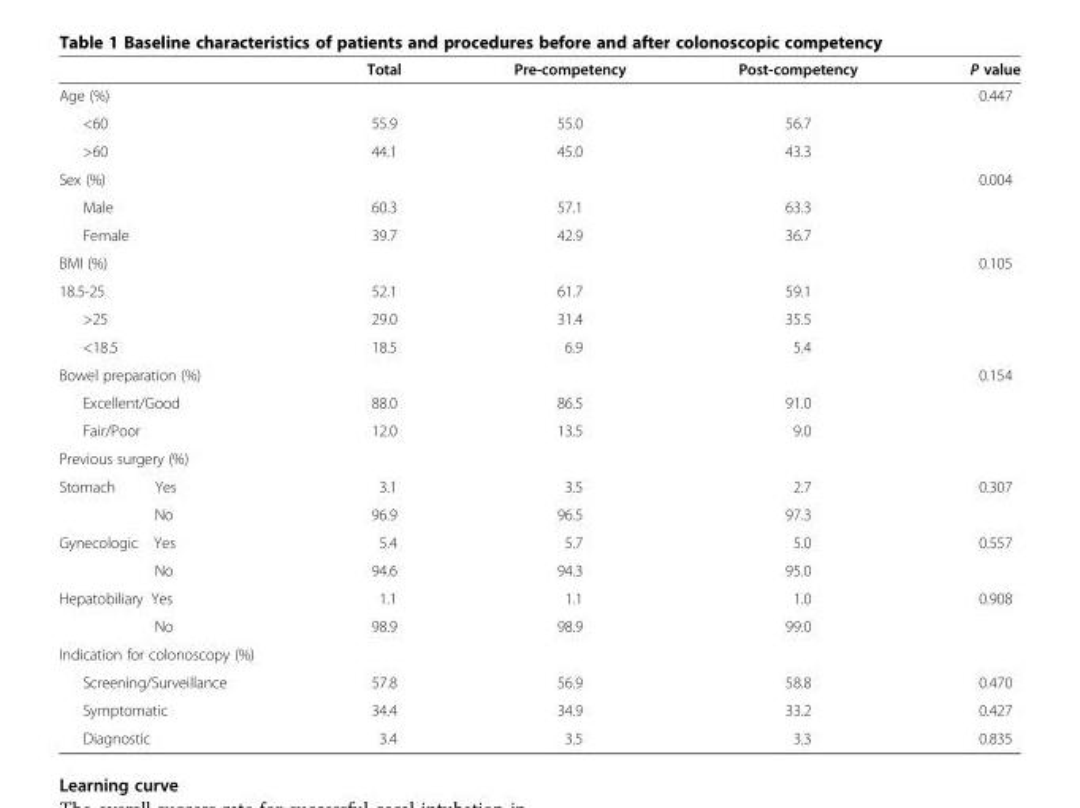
<table><thead><tr><td></td><td>Total</td><td>Pre-competency</td><td>Post-competency</td><td>P value</td></tr></thead><tbody><tr><td>Age (%)</td><td></td><td></td><td></td><td>0.447</td></tr><tr><td>&lt;60</td><td>55.9</td><td>55.0</td><td>56.7</td><td></td></tr><tr><td>&gt;60</td><td>44.1</td><td>45.0</td><td>43.3</td><td></td></tr><tr><td>Sex (%)</td><td></td><td></td><td></td><td>0.004</td></tr><tr><td>Male</td><td>60.3</td><td>57.1</td><td>63.3</td><td></td></tr><tr><td>Female</td><td>39.7</td><td>42.9</td><td>36.7</td><td></td></tr><tr><td>BMI (%)</td><td></td><td></td><td></td><td>0.105</td></tr><tr><td>18.5-25</td><td>52.1</td><td>61.7</td><td>59.1</td><td></td></tr><tr><td>&gt;25</td><td>29.0</td><td>31.4</td><td>35.5</td><td></td></tr><tr><td>&lt;18.5</td><td>18.5</td><td>6.9</td><td>5.4</td><td></td></tr><tr><td>Bowel preparation (%)</td><td></td><td></td><td></td><td>0.154</td></tr><tr><td>Excellent/Good</td><td>88.0</td><td>86.5</td><td>91.0</td><td></td></tr><tr><td>Fair/Poor</td><td>12.0</td><td>13.5</td><td>9.0</td><td></td></tr><tr><td colspan="5">Previous surgery (%)</td></tr><tr><td>Stomach Yes</td><td>3.1</td><td>3.5</td><td>2.7</td><td>0.307</td></tr><tr><td>No</td><td>96.9</td><td>96.5</td><td>97.3</td><td></td></tr><tr><td>Gynecologic Yes</td><td>5.4</td><td>5.7</td><td>5.0</td><td>0.557</td></tr><tr><td>No</td><td>94.6</td><td>94.3</td><td>95.0</td><td></td></tr><tr><td>Hepatobiliary Yes</td><td>1.1</td><td>1.1</td><td>1.0</td><td>0.908</td></tr><tr><td>No</td><td>98.9</td><td>98.9</td><td>99.0</td><td></td></tr><tr><td colspan="5">Indication for colonoscopy (%)</td></tr><tr><td>Screening/Surveillance</td><td>57.8</td><td>56.9</td><td>58.8</td><td>0.470</td></tr><tr><td>Symptomatic</td><td>34.4</td><td>34.9</td><td>33.2</td><td>0.427</td></tr><tr><td>Diagnostic</td><td>3.4</td><td>3.5</td><td>3.3</td><td>0.835</td></tr></tbody></table>